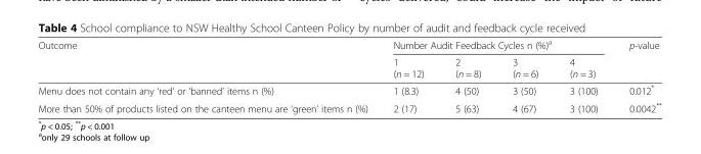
<table><thead><tr><td rowspan="2">Outcome</td><td colspan="4">Number Audit Feedback Cycles n (%)<sup>a</sup></td><td rowspan="2">p-value</td></tr><tr><td>1 (n = 12)</td><td>2 (n = 8)</td><td>3 (n = 6)</td><td>4 (n = 3)</td></tr></thead><tbody><tr><td>Menu does not contain any ‘red’ or ‘banned’ items n (%)</td><td>1 (8.3)</td><td>4 (50)</td><td>3 (50)</td><td>3 (100)</td><td>0.012*</td></tr><tr><td>More than 50% of products listed on the canteen menu are ‘green’ items n (%)</td><td>2 (17)</td><td>5 (63)</td><td>4 (67)</td><td>3 (100)</td><td>0.0042**</td></tr></tbody></table>